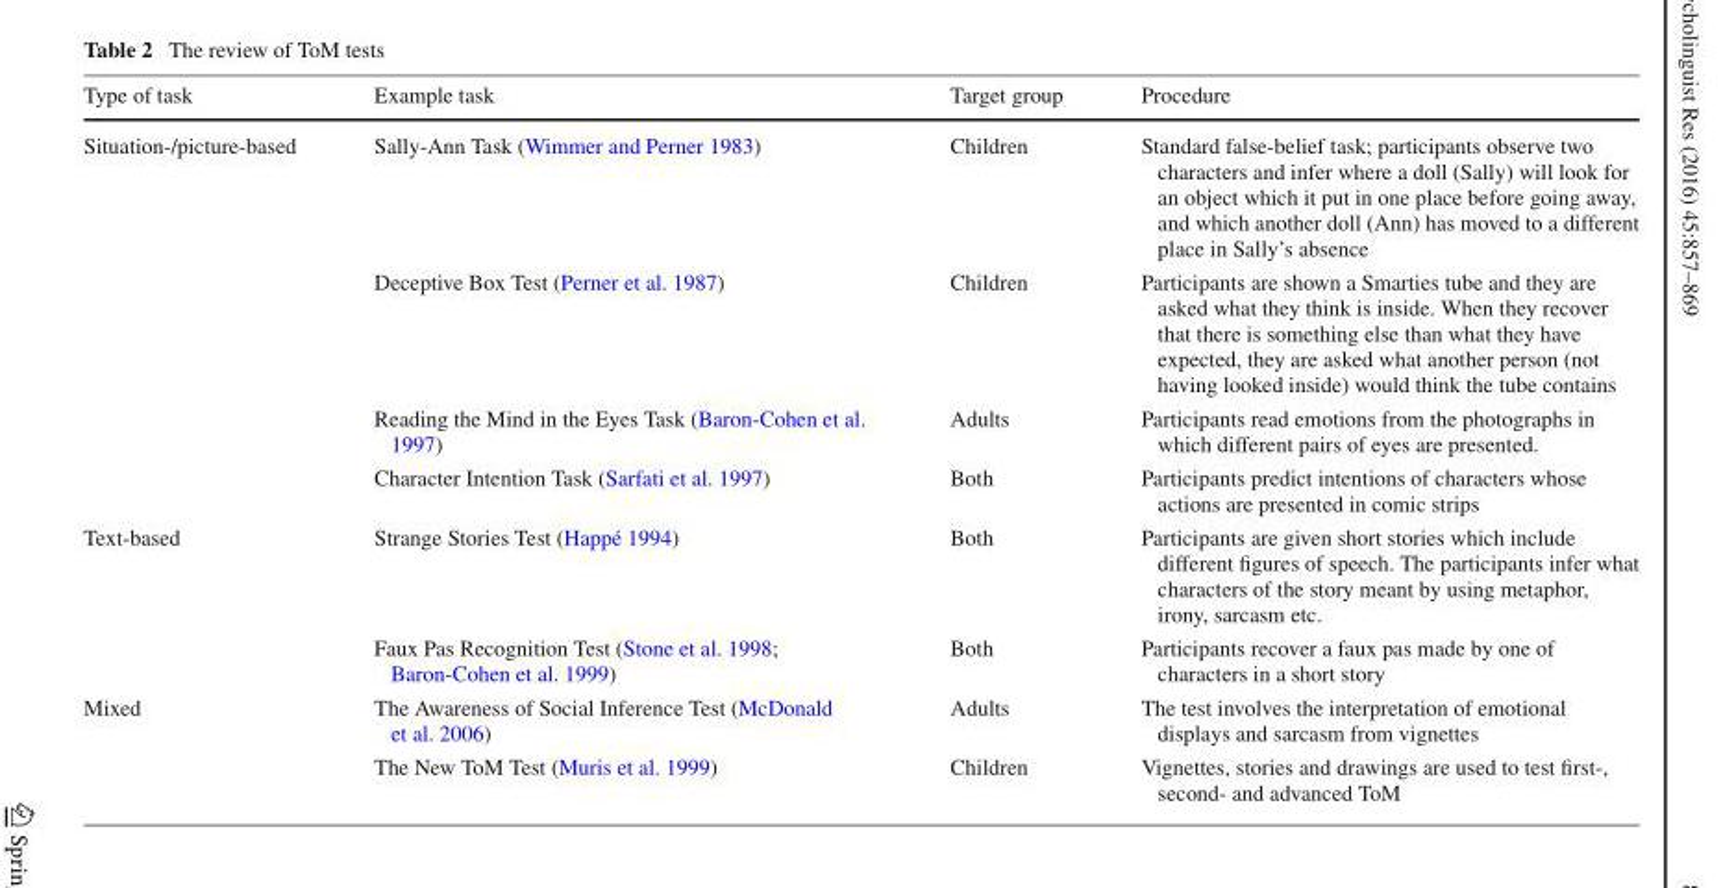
<table><thead><tr><td>Type of task</td><td>Example task</td><td>Target group</td><td>Procedure</td></tr></thead><tbody><tr><td rowspan="4">Situation-/picture-based</td><td>Sally-Ann Task (Wimmer and Perner 1983)</td><td>Children</td><td>Standard false-belief task; participants observe two characters and infer where a doll (Sally) will look for an object which it put in one place before going away, and which another doll (Ann) has moved to a different place in Sally’s absence</td></tr><tr><td>Deceptive Box Test (Perner et al. 1987)</td><td>Children</td><td>Participants are shown a Smarties tube and they are asked what they think is inside. When they recover that there is something else than what they have expected, they are asked what another person (not having looked inside) would think the tube contains</td></tr><tr><td>Reading the Mind in the Eyes Task (Baron-Cohen et al. 1997)</td><td>Adults</td><td>Participants read emotions from the photographs in which different pairs of eyes are presented.</td></tr><tr><td>Character Intention Task (Sarfati et al. 1997)</td><td>Both</td><td>Participants predict intentions of characters whose actions are presented in comic strips</td></tr><tr><td rowspan="2">Text-based</td><td>Strange Stories Test (Happé 1994)</td><td>Both</td><td>Participants are given short stories which include different figures of speech. The participants infer what characters of the story meant by using metaphor, irony, sarcasm etc.</td></tr><tr><td>Faux Pas Recognition Test (Stone et al. 1998; Baron-Cohen et al. 1999)</td><td>Both</td><td>Participants recover a faux pas made by one of characters in a short story</td></tr><tr><td rowspan="2">Mixed</td><td>The Awareness of Social Inference Test (McDonald et al. 2006)</td><td>Adults</td><td>The test involves the interpretation of emotional displays and sarcasm from vignettes</td></tr><tr><td>The New ToM Test (Muris et al. 1999)</td><td>Children</td><td>Vignettes, stories and drawings are used to test first-, second- and advanced ToM</td></tr></tbody></table>